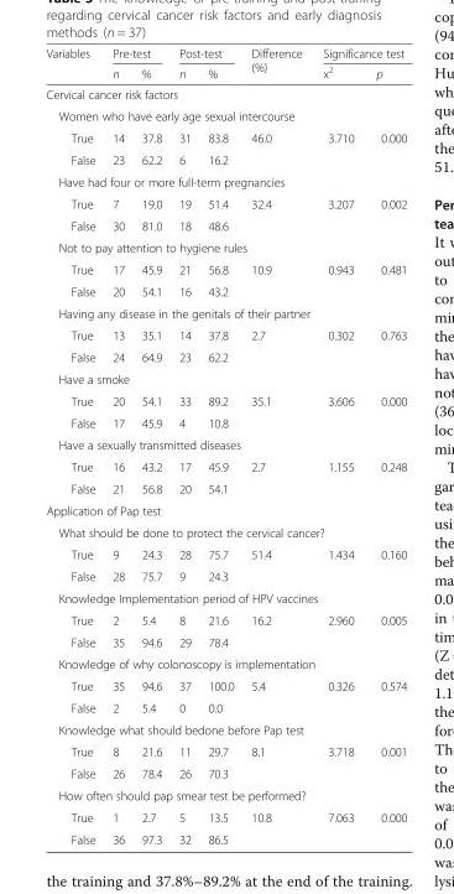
<table><thead><tr><td rowspan="2">Variables</td><td colspan="2">Pre-test</td><td colspan="2">Post-test</td><td rowspan="2">Difference (%)</td><td colspan="2">Significance test</td></tr><tr><td>n</td><td>%</td><td>n</td><td>%</td><td>x<sup>2</sup></td><td>p</td></tr></thead><tbody><tr><td colspan="8">Cervical cancer risk factors</td></tr><tr><td colspan="8">Women who have early age sexual intercourse</td></tr><tr><td>True</td><td>14</td><td>37.8</td><td>31</td><td>83.8</td><td rowspan="2">46.0</td><td rowspan="2">3.710</td><td rowspan="2">0.000</td></tr><tr><td>False</td><td>23</td><td>62.2</td><td>6</td><td>16.2</td></tr><tr><td colspan="8">Have had four or more full-term pregnancies</td></tr><tr><td>True</td><td>7</td><td>19.0</td><td>19</td><td>51.4</td><td rowspan="2">32.4</td><td rowspan="2">3.207</td><td rowspan="2">0.002</td></tr><tr><td>False</td><td>30</td><td>81.0</td><td>18</td><td>48.6</td></tr><tr><td colspan="8">Not to pay attention to hygiene rules</td></tr><tr><td>True</td><td>17</td><td>45.9</td><td>21</td><td>56.8</td><td rowspan="2">10.9</td><td rowspan="2">0.943</td><td rowspan="2">0.481</td></tr><tr><td>False</td><td>20</td><td>54.1</td><td>16</td><td>43.2</td></tr><tr><td colspan="8">Having any disease in the genitals of their partner</td></tr><tr><td>True</td><td>13</td><td>35.1</td><td>14</td><td>37.8</td><td rowspan="2">2.7</td><td rowspan="2">0.302</td><td rowspan="2">0.763</td></tr><tr><td>False</td><td>24</td><td>64.9</td><td>23</td><td>62.2</td></tr><tr><td colspan="8">Have a smoke</td></tr><tr><td>True</td><td>20</td><td>54.1</td><td>33</td><td>89.2</td><td rowspan="2">35.1</td><td rowspan="2">3.606</td><td rowspan="2">0.000</td></tr><tr><td>False</td><td>17</td><td>45.9</td><td>4</td><td>10.8</td></tr><tr><td colspan="8">Have a sexually transmitted diseases</td></tr><tr><td>True</td><td>16</td><td>43.2</td><td>17</td><td>45.9</td><td rowspan="2">2.7</td><td rowspan="2">1.155</td><td rowspan="2">0.248</td></tr><tr><td>False</td><td>21</td><td>56.8</td><td>20</td><td>54.1</td></tr><tr><td colspan="8">Application of Pap test</td></tr><tr><td colspan="8">What should be done to protect the cervical cancer?</td></tr><tr><td>True</td><td>9</td><td>24.3</td><td>28</td><td>75.7</td><td rowspan="2">51.4</td><td rowspan="2">1.434</td><td rowspan="2">0.160</td></tr><tr><td>False</td><td>28</td><td>75.7</td><td>9</td><td>24.3</td></tr><tr><td colspan="8">Knowledge Implementation period of HPV vaccines</td></tr><tr><td>True</td><td>2</td><td>5.4</td><td>8</td><td>21.6</td><td>16.2</td><td>2.960</td><td>0.005</td></tr><tr><td>False</td><td>35</td><td>94.6</td><td>29</td><td>78.4</td><td></td><td></td><td></td></tr><tr><td colspan="8">Knowledge of why colonoscopy is implementation</td></tr><tr><td>True</td><td>35</td><td>94.6</td><td>37</td><td>100.0</td><td>5.4</td><td>0.326</td><td>0.574</td></tr><tr><td>False</td><td>2</td><td>5.4</td><td>0</td><td>0.0</td><td></td><td></td><td></td></tr><tr><td colspan="8">Knowledge what should bedone before Pap test</td></tr><tr><td>True</td><td>8</td><td>21.6</td><td>11</td><td>29.7</td><td>8.1</td><td>3.718</td><td>0.001</td></tr><tr><td>False</td><td>26</td><td>78.4</td><td>26</td><td>70.3</td><td></td><td></td><td></td></tr><tr><td colspan="8">How often should pap smear test be performed?</td></tr><tr><td>True</td><td>1</td><td>2.7</td><td>5</td><td>13.5</td><td>10.8</td><td>7.063</td><td>0.000</td></tr><tr><td>False</td><td>36</td><td>97.3</td><td>32</td><td>86.5</td><td></td><td></td><td></td></tr></tbody></table>